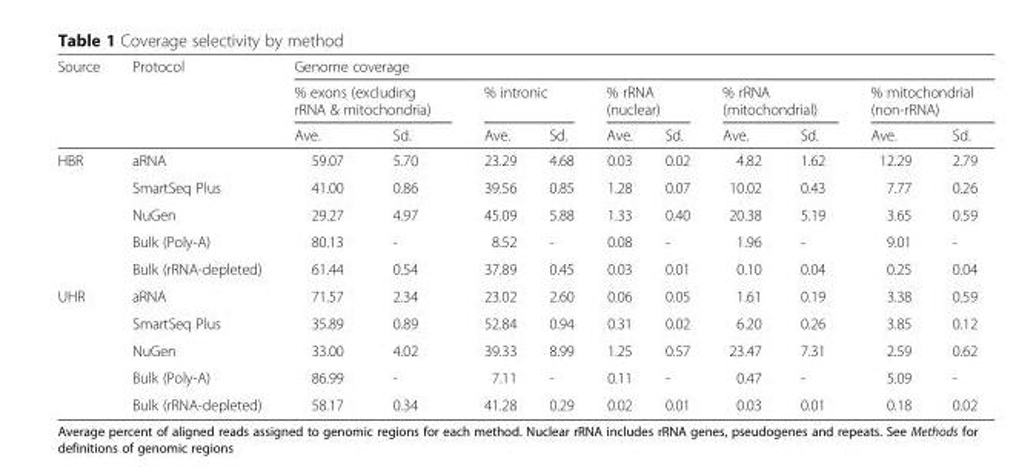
<table><thead><tr><td rowspan="3">Source</td><td rowspan="3">Protocol</td><td colspan="10">Genome coverage</td></tr><tr><td colspan="2">% exons (excluding rRNA &amp; mitochondria)</td><td colspan="2">% intronic</td><td colspan="2">% rRNA (nuclear)</td><td colspan="2">% rRNA (mitochondrial)</td><td colspan="2">% mitochondrial (non-rRNA)</td></tr><tr><td>Ave.</td><td>Sd.</td><td>Ave.</td><td>Sd.</td><td>Ave.</td><td>Sd.</td><td>Ave.</td><td>Sd.</td><td>Ave.</td><td>Sd.</td></tr></thead><tbody><tr><td rowspan="5">HBR</td><td>aRNA</td><td>59.07</td><td>5.70</td><td>23.29</td><td>4.68</td><td>0.03</td><td>0.02</td><td>4.82</td><td>1.62</td><td>12.29</td><td>2.79</td></tr><tr><td>SmartSeq Plus</td><td>41.00</td><td>0.86</td><td>39.56</td><td>0.85</td><td>1.28</td><td>0.07</td><td>10.02</td><td>0.43</td><td>7.77</td><td>0.26</td></tr><tr><td>NuGen</td><td>29.27</td><td>4.97</td><td>45.09</td><td>5.88</td><td>1.33</td><td>0.40</td><td>20.38</td><td>5.19</td><td>3.65</td><td>0.59</td></tr><tr><td>Bulk (Poly-A)</td><td>80.13</td><td>-</td><td>8.52</td><td>-</td><td>0.08</td><td>-</td><td>1.96</td><td>-</td><td>9.01</td><td>-</td></tr><tr><td>Bulk (rRNA-depleted)</td><td>61.44</td><td>0.54</td><td>37.89</td><td>0.45</td><td>0.03</td><td>0.01</td><td>0.10</td><td>0.04</td><td>0.25</td><td>0.04</td></tr><tr><td rowspan="5">UHR</td><td>aRNA</td><td>71.57</td><td>2.34</td><td>23.02</td><td>2.60</td><td>0.06</td><td>0.05</td><td>1.61</td><td>0.19</td><td>3.38</td><td>0.59</td></tr><tr><td>SmartSeq Plus</td><td>35.89</td><td>0.89</td><td>52.84</td><td>0.94</td><td>0.31</td><td>0.02</td><td>6.20</td><td>0.26</td><td>3.85</td><td>0.12</td></tr><tr><td>NuGen</td><td>33.00</td><td>4.02</td><td>39.33</td><td>8.99</td><td>1.25</td><td>0.57</td><td>23.47</td><td>7.31</td><td>2.59</td><td>0.62</td></tr><tr><td>Bulk (Poly-A)</td><td>86.99</td><td>-</td><td>7.11</td><td>-</td><td>0.11</td><td>-</td><td>0.47</td><td>-</td><td>5.09</td><td>-</td></tr><tr><td>Bulk (rRNA-depleted)</td><td>58.17</td><td>0.34</td><td>41.28</td><td>0.29</td><td>0.02</td><td>0.01</td><td>0.03</td><td>0.01</td><td>0.18</td><td>0.02</td></tr></tbody></table>